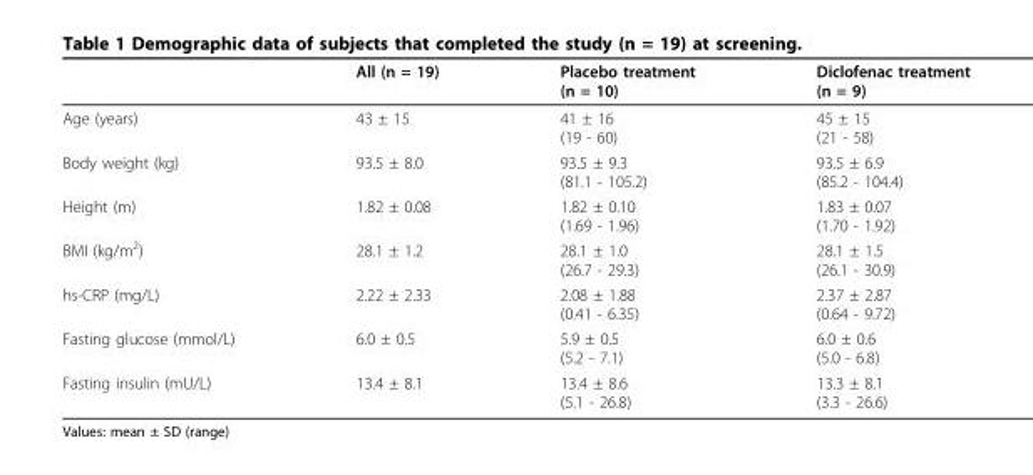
<table><thead><tr><td></td><td>All (n = 19)</td><td>Placebo treatment (n = 10)</td><td>Diclofenac treatment (n = 9)</td></tr></thead><tbody><tr><td>Age (years)</td><td>43 ± 15</td><td>41 ± 16 (19 - 60)</td><td>45 ± 15 (21 - 58)</td></tr><tr><td>Body weight (kg)</td><td>93.5 ± 8.0</td><td>93.5 ± 9.3 (81.1 - 105.2)</td><td>93.5 ± 6.9 (85.2 - 104.4)</td></tr><tr><td>Height (m)</td><td>1.82 ± 0.08</td><td>1.82 ± 0.10 (1.69 - 1.96)</td><td>1.83 ± 0.07 (1.70 - 1.92)</td></tr><tr><td>BMI (kg/m<sup>2</sup>)</td><td>28.1 ± 1.2</td><td>28.1 ± 1.0 (26.7 - 29.3)</td><td>28.1 ± 1.5 (26.1 - 30.9)</td></tr><tr><td>hs-CRP (mg/L)</td><td>2.22 ± 2.33</td><td>2.08 ± 1.88 (0.41 - 6.35)</td><td>2.37 ± 2.87 (0.64 - 9.72)</td></tr><tr><td>Fasting glucose (mmol/L)</td><td>6.0 ± 0.5</td><td>5.9 ± 0.5 (5.2 - 7.1)</td><td>6.0 ± 0.6 (5.0 - 6.8)</td></tr><tr><td>Fasting insulin (mU/L)</td><td>13.4 ± 8.1</td><td>13.4 ± 8.6 (5.1 - 26.8)</td><td>13.3 ± 8.1 (3.3 - 26.6)</td></tr></tbody></table>